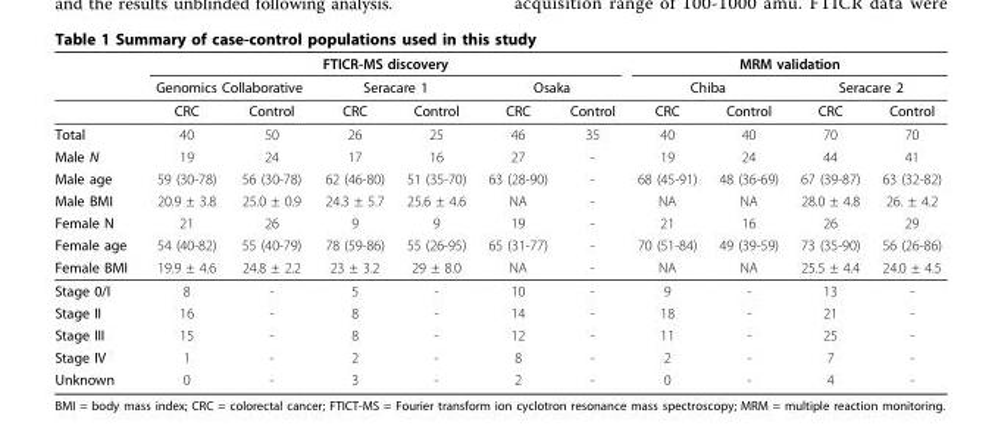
<table><thead><tr><td rowspan="3"></td><td colspan="6">FTICR-MS discovery</td><td colspan="4">MRM validation</td></tr><tr><td colspan="2">Genomics Collaborative</td><td colspan="2">Seracare 1</td><td colspan="2">Osaka</td><td colspan="2">Chiba</td><td colspan="2">Seracare 2</td></tr><tr><td>CRC</td><td>Control</td><td>CRC</td><td>Control</td><td>CRC</td><td>Control</td><td>CRC</td><td>Control</td><td>CRC</td><td>Control</td></tr></thead><tbody><tr><td>Total</td><td>40</td><td>50</td><td>26</td><td>25</td><td>46</td><td>35</td><td>40</td><td>40</td><td>70</td><td>70</td></tr><tr><td>Male N</td><td>19</td><td>24</td><td>17</td><td>16</td><td>27</td><td>-</td><td>19</td><td>24</td><td>44</td><td>41</td></tr><tr><td>Male age</td><td>59 (30-78)</td><td>56 (30-78)</td><td>62 (46-80)</td><td>51 (35-70)</td><td>63 (28-90)</td><td>-</td><td>68 (45-91)</td><td>48 (36-69)</td><td>67 (39-87)</td><td>63 (32-82)</td></tr><tr><td>Male BMI</td><td>20.9 ± 3.8</td><td>25.0 ± 0.9</td><td>24.3 ± 5.7</td><td>25.6 ± 4.6</td><td>NA</td><td>-</td><td>NA</td><td>NA</td><td>28.0 ± 4.8</td><td>26. ± 4.2</td></tr><tr><td>Female N</td><td>21</td><td>26</td><td>9</td><td>9</td><td>19</td><td>-</td><td>21</td><td>16</td><td>26</td><td>29</td></tr><tr><td>Female age</td><td>54 (40-82)</td><td>55 (40-79)</td><td>78 (59-86)</td><td>55 (26-95)</td><td>65 (31-77)</td><td>-</td><td>70 (51-84)</td><td>49 (39-59)</td><td>73 (35-90)</td><td>56 (26-86)</td></tr><tr><td>Female BMI</td><td>19.9 ± 4.6</td><td>24.8 ± 2.2</td><td>23 ± 3.2</td><td>29 ± 8.0</td><td>NA</td><td>-</td><td>NA</td><td>NA</td><td>25.5 ± 4.4</td><td>24.0 ± 4.5</td></tr><tr><td>Stage 0/I</td><td>8</td><td>-</td><td>5</td><td>-</td><td>10</td><td>-</td><td>9</td><td>-</td><td>13</td><td>-</td></tr><tr><td>Stage II</td><td>16</td><td>-</td><td>8</td><td>-</td><td>14</td><td>-</td><td>18</td><td>-</td><td>21</td><td>-</td></tr><tr><td>Stage III</td><td>15</td><td>-</td><td>8</td><td>-</td><td>12</td><td>-</td><td>11</td><td>-</td><td>25</td><td>-</td></tr><tr><td>Stage IV</td><td>1</td><td>-</td><td>2</td><td>-</td><td>8</td><td>-</td><td>2</td><td>-</td><td>7</td><td>-</td></tr><tr><td>Unknown</td><td>0</td><td>-</td><td>3</td><td>-</td><td>2</td><td>-</td><td>0</td><td>-</td><td>4</td><td>-</td></tr></tbody></table>